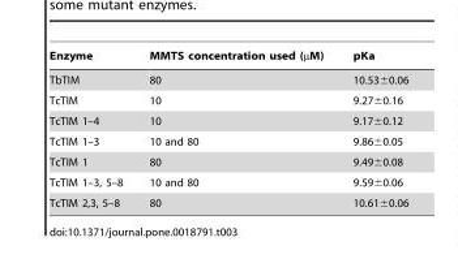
<table><thead><tr><td>Enzyme</td><td>MMTS concentration used (µM)</td><td>pKa</td></tr></thead><tbody><tr><td>TbTIM</td><td>80</td><td>10.53±0.06</td></tr><tr><td>TcTIM</td><td>10</td><td>9.27±0.16</td></tr><tr><td>TcTIM 1–4</td><td>10</td><td>9.17±0.12</td></tr><tr><td>TcTIM 1–3</td><td>10 and 80</td><td>9.86±0.05</td></tr><tr><td>TcTIM 1</td><td>80</td><td>9.49±0.08</td></tr><tr><td>TcTIM 1–3, 5–8</td><td>10 and 80</td><td>9.59±0.06</td></tr><tr><td>TcTIM 2,3, 5–8</td><td>80</td><td>10.61±0.06</td></tr></tbody></table>